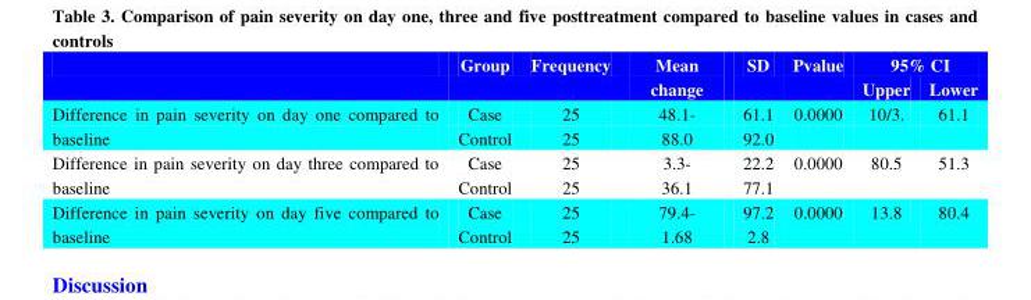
<table><thead><tr><td rowspan="2"></td><td rowspan="2">Group</td><td rowspan="2">Frequency</td><td rowspan="2">Mean change</td><td rowspan="2">SD</td><td rowspan="2">Pvalue</td><td colspan="2">95% CI</td></tr><tr><td>Upper</td><td>Lower</td></tr></thead><tbody><tr><td rowspan="2">Difference in pain severity on day one compared to baseline</td><td>Case</td><td>25</td><td>48.1-</td><td>61.1</td><td>0.0000</td><td rowspan="2">10/3.</td><td rowspan="2">61.1</td></tr><tr><td>Control</td><td>25</td><td>88.0</td><td>92.0</td><td></td></tr><tr><td rowspan="2">Difference in pain severity on day three compared to baseline</td><td>Case</td><td>25</td><td>3.3-</td><td>22.2</td><td>0.0000</td><td rowspan="2">80.5</td><td rowspan="2">51.3</td></tr><tr><td>Control</td><td>25</td><td>36.1</td><td>77.1</td><td></td></tr><tr><td>Difference in pain severity on day five compared to baseline</td><td>Case Control</td><td>25 25</td><td>79.4- 1.68</td><td>97.2 2.8</td><td>0.0000</td><td>13.8</td><td>80.4</td></tr></tbody></table>